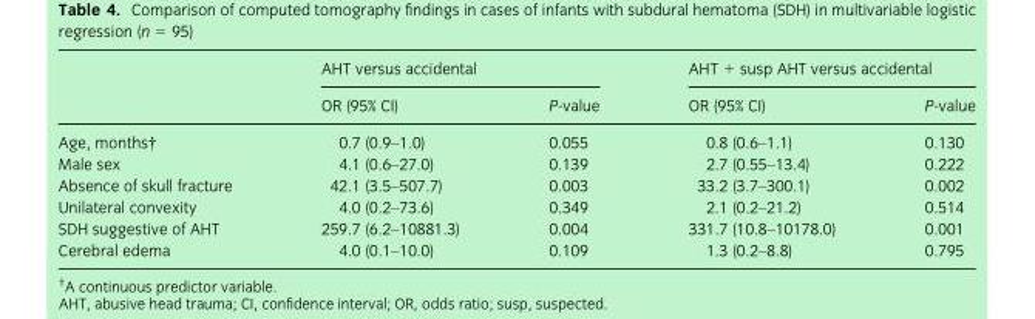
<table><thead><tr><td rowspan="2"></td><td colspan="2">AHT versus accidental</td><td colspan="2">AHT + susp AHT versus accidental</td></tr><tr><td>OR (95% CI)</td><td>P-value</td><td>OR (95% CI)</td><td>P-value</td></tr></thead><tbody><tr><td>Age, months†</td><td>0.7 (0.9–1.0)</td><td>0.055</td><td>0.8 (0.6–1.1)</td><td>0.130</td></tr><tr><td>Male sex</td><td>4.1 (0.6–27.0)</td><td>0.139</td><td>2.7 (0.55–13.4)</td><td>0.222</td></tr><tr><td>Absence of skull fracture</td><td>42.1 (3.5–507.7)</td><td>0.003</td><td>33.2 (3.7–300.1)</td><td>0.002</td></tr><tr><td>Unilateral convexity</td><td>4.0 (0.2–73.6)</td><td>0.349</td><td>2.1 (0.2–21.2)</td><td>0.514</td></tr><tr><td>SDH suggestive of AHT</td><td>259.7 (6.2–10881.3)</td><td>0.004</td><td>331.7 (10.8–10178.0)</td><td>0.001</td></tr><tr><td>Cerebral edema</td><td>4.0 (0.1–10.0)</td><td>0.109</td><td>1.3 (0.2–8.8)</td><td>0.795</td></tr></tbody></table>